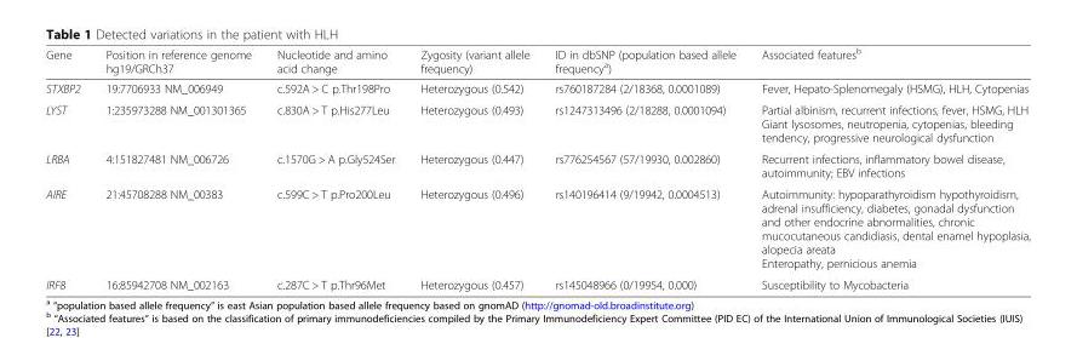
<table><thead><tr><td>Gene</td><td>Position in reference genome hg19/GRCh37</td><td>Nucleotide and amino acid change</td><td>Zygosity (variant allele frequency)</td><td>ID in dbSNP (population based allele frequency<sup>a</sup>)</td><td>Associated features<sup>b</sup></td></tr></thead><tbody><tr><td>STXBP2</td><td>19:7706933 NM_006949</td><td>c.592A &gt; C p.Thr198Pro</td><td>Heterozygous (0.542)</td><td>rs760187284 (2/18368, 0.0001089)</td><td>Fever, Hepato-Splenomegaly (HSMG), HLH, Cytopenias</td></tr><tr><td>LYST</td><td>1:235973288 NM_001301365</td><td>c.830A &gt; T p.His277Leu</td><td>Heterozygous (0.493)</td><td>rs1247313496 (2/18288, 0.0001094)</td><td>Partial albinism, recurrent infections, fever, HSMG, HLH Giant lysosomes, neutropenia, cytopenias, bleeding tendency, progressive neurological dysfunction</td></tr><tr><td>LRBA</td><td>4:151827481 NM_006726</td><td>c.1570G &gt; A p.Gly524Ser</td><td>Heterozygous (0.447)</td><td>rs776254567 (57/19930, 0.002860)</td><td>Recurrent infections, inflammatory bowel disease, autoimmunity; EBV infections</td></tr><tr><td>AIRE</td><td>21:45708288 NM_00383</td><td>c.599C &gt; T p.Pro200Leu</td><td>Heterozygous (0.496)</td><td>rs140196414 (9/19942, 0.0004513)</td><td>Autoimmunity: hypoparathyroidism hypothyroidism, adrenal insufficiency, diabetes, gonadal dysfunction and other endocrine abnormalities, chronic mucocutaneous candidiasis, dental enamel hypoplasia, alopecia areata Enteropathy, pernicious anemia</td></tr><tr><td>IRF8</td><td>16:85942708 NM_002163</td><td>c.287C &gt; T p.Thr96Met</td><td>Heterozygous (0.457)</td><td>rs145048966 (0/19954, 0.000)</td><td>Susceptibility to Mycobacteria</td></tr></tbody></table>